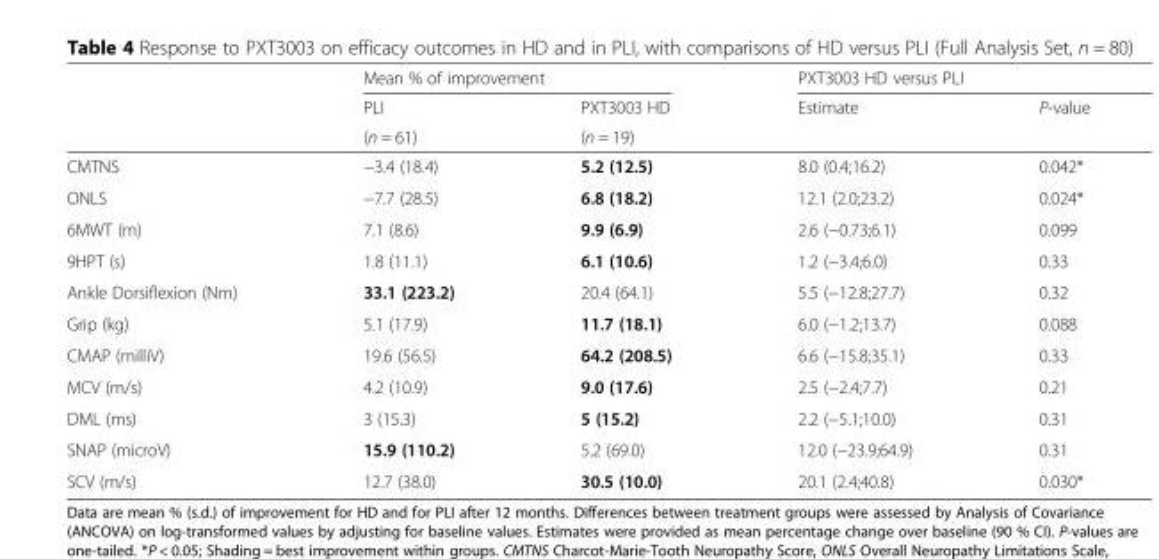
<table><thead><tr><td rowspan="3"></td><td colspan="2">Mean % of improvement</td><td colspan="2">PXT3003 HD versus PLI</td></tr><tr><td rowspan="2">PLI (n = 61)</td><td rowspan="2">PXT3003 HD (n = 19)</td><td rowspan="2">Estimate</td><td rowspan="2">P-value</td></tr><tr></tr></thead><tbody><tr><td>CMTNS</td><td>−3.4 (18.4)</td><td>5.2 (12.5)</td><td>8.0 (0.4;16.2)</td><td>0.042*</td></tr><tr><td>ONLS</td><td>−7.7 (28.5)</td><td>6.8 (18.2)</td><td>12.1 (2.0;23.2)</td><td>0.024*</td></tr><tr><td>6MWT (m)</td><td>7.1 (8.6)</td><td>9.9 (6.9)</td><td>2.6 (−0.73;6.1)</td><td>0.099</td></tr><tr><td>9HPT (s)</td><td>1.8 (11.1)</td><td>6.1 (10.6)</td><td>1.2 (−3.4;6.0)</td><td>0.33</td></tr><tr><td>Ankle Dorsiflexion (Nm)</td><td>33.1 (223.2)</td><td>20.4 (64.1)</td><td>5.5 (−12.8;27.7)</td><td>0.32</td></tr><tr><td>Grip (kg)</td><td>5.1 (17.9)</td><td>11.7 (18.1)</td><td>6.0 (−1.2;13.7)</td><td>0.088</td></tr><tr><td>CMAP (milliV)</td><td>19.6 (56.5)</td><td>64.2 (208.5)</td><td>6.6 (−15.8;35.1)</td><td>0.33</td></tr><tr><td>MCV (m/s)</td><td>4.2 (10.9)</td><td>9.0 (17.6)</td><td>2.5 (−2.4;7.7)</td><td>0.21</td></tr><tr><td>DML (ms)</td><td>3 (15.3)</td><td>5 (15.2)</td><td>2.2 (−5.1;10.0)</td><td>0.31</td></tr><tr><td>SNAP (microV)</td><td>15.9 (110.2)</td><td>5.2 (69.0)</td><td>12.0 (−23.9;64.9)</td><td>0.31</td></tr><tr><td>SCV (m/s)</td><td>12.7 (38.0)</td><td>30.5 (10.0)</td><td>20.1 (2.4;40.8)</td><td>0.030*</td></tr></tbody></table>